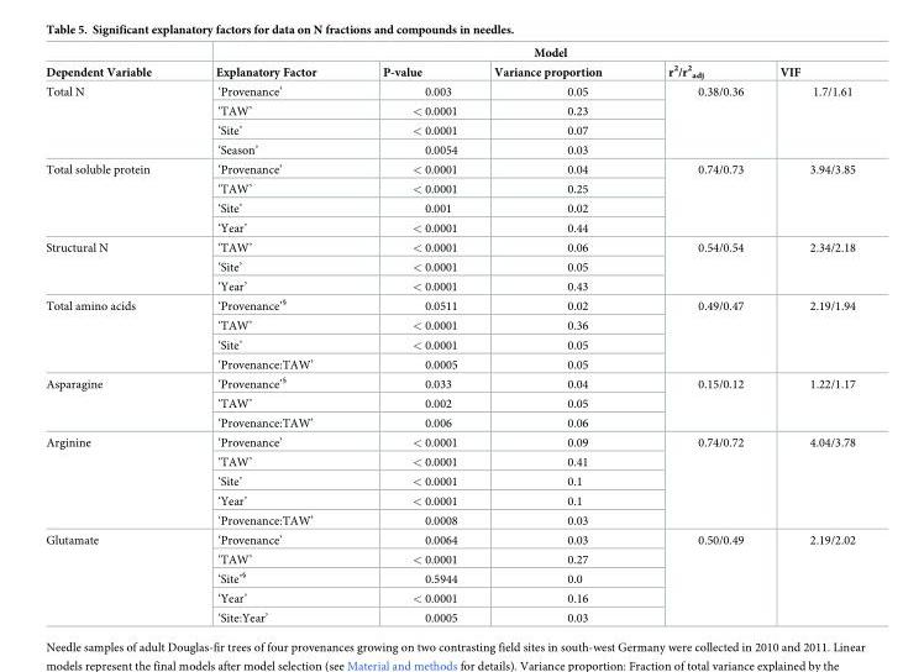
<table><thead><tr><td rowspan="2">Dependent Variable</td><td colspan="5">Model</td></tr><tr><td>Explanatory Factor</td><td>P-value</td><td>Variance proportion</td><td>r<sup>2</sup>/r<sup>2</sup> <sub>adj</sub></td><td>VIF</td></tr></thead><tbody><tr><td rowspan="4">Total N</td><td>‘Provenance’</td><td>0.003</td><td>0.05</td><td rowspan="4">0.38/0.36</td><td rowspan="4">1.7/1.61</td></tr><tr><td>‘TAW’</td><td>&lt; 0.0001</td><td>0.23</td></tr><tr><td>‘Site’</td><td>&lt; 0.0001</td><td>0.07</td></tr><tr><td>‘Season’</td><td>0.0054</td><td>0.03</td></tr><tr><td rowspan="4">Total soluble protein</td><td>‘Provenance’</td><td>&lt; 0.0001</td><td>0.04</td><td rowspan="4">0.74/0.73</td><td rowspan="4">3.94/3.85</td></tr><tr><td>‘TAW’</td><td>&lt; 0.0001</td><td>0.25</td></tr><tr><td>‘Site’</td><td>0.001</td><td>0.02</td></tr><tr><td>‘Year’</td><td>&lt; 0.0001</td><td>0.44</td></tr><tr><td rowspan="3">Structural N</td><td>‘TAW’</td><td>&lt; 0.0001</td><td>0.06</td><td rowspan="3">0.54/0.54</td><td rowspan="3">2.34/2.18</td></tr><tr><td>‘Site’</td><td>&lt; 0.0001</td><td>0.05</td></tr><tr><td>‘Year’</td><td>&lt; 0.0001</td><td>0.43</td></tr><tr><td rowspan="4">Total amino acids</td><td>‘Provenance’<sup>§</sup></td><td>0.0511</td><td>0.02</td><td rowspan="4">0.49/0.47</td><td rowspan="4">2.19/1.94</td></tr><tr><td>‘TAW’</td><td>&lt; 0.0001</td><td>0.36</td></tr><tr><td>‘Site’</td><td>&lt; 0.0001</td><td>0.05</td></tr><tr><td>‘Provenance:TAW’</td><td>0.0005</td><td>0.05</td></tr><tr><td rowspan="3">Asparagine</td><td>‘Provenance’<sup>§</sup></td><td>0.033</td><td>0.04</td><td rowspan="3">0.15/0.12</td><td rowspan="3">1.22/1.17</td></tr><tr><td>‘TAW’</td><td>0.002</td><td>0.05</td></tr><tr><td>‘Provenance:TAW’</td><td>0.006</td><td>0.06</td></tr><tr><td rowspan="5">Arginine</td><td>‘Provenance’</td><td>&lt; 0.0001</td><td>0.09</td><td rowspan="5">0.74/0.72</td><td rowspan="5">4.04/3.78</td></tr><tr><td>‘TAW’</td><td>&lt; 0.0001</td><td>0.41</td></tr><tr><td>‘Site’</td><td>&lt; 0.0001</td><td>0.1</td></tr><tr><td>‘Year’</td><td>&lt; 0.0001</td><td>0.1</td></tr><tr><td>‘Provenance:TAW’</td><td>0.0008</td><td>0.03</td></tr><tr><td rowspan="5">Glutamate</td><td>‘Provenance’</td><td>0.0064</td><td>0.03</td><td rowspan="5">0.50/0.49</td><td rowspan="5">2.19/2.02</td></tr><tr><td>‘TAW’</td><td>&lt; 0.0001</td><td>0.27</td></tr><tr><td>‘Site’<sup>§</sup></td><td>0.5944</td><td>0.0</td></tr><tr><td>‘Year’</td><td>&lt; 0.0001</td><td>0.16</td></tr><tr><td>‘Site:Year’</td><td>0.0005</td><td>0.03</td></tr></tbody></table>